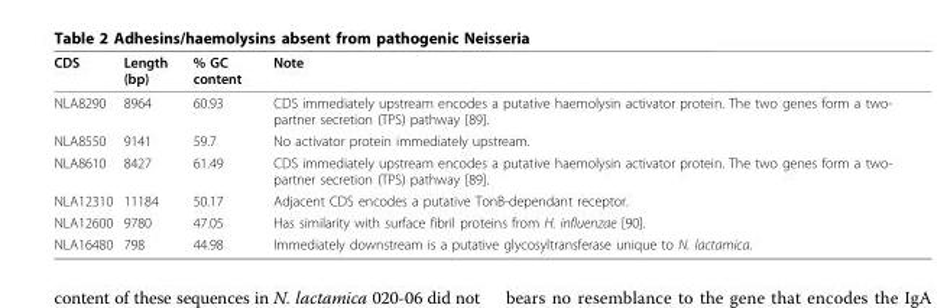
<table><thead><tr><td>CDS</td><td>Length (bp)</td><td>% GC content</td><td>Note</td></tr></thead><tbody><tr><td>NLA8290</td><td>8964</td><td>60.93</td><td>CDS immediately upstream encodes a putative haemolysin activator protein. The two genes form a two- partner secretion (TPS) pathway [89].</td></tr><tr><td>NLA8550</td><td>9141</td><td>59.7</td><td>No activator protein immediately upstream.</td></tr><tr><td>NLA8610</td><td>8427</td><td>61.49</td><td>CDS immediately upstream encodes a putative haemolysin activator protein. The two genes form a two- partner secretion (TPS) pathway [89].</td></tr><tr><td>NLA12310</td><td>11184</td><td>50.17</td><td>Adjacent CDS encodes a putative TonB-dependant receptor.</td></tr><tr><td>NLA12600</td><td>9780</td><td>47.05</td><td>Has similarity with surface fibril proteins from H. influenzae [90].</td></tr><tr><td>NLA16480</td><td>798</td><td>44.98</td><td>Immediately downstream is a putative glycosyltransferase unique to N. lactamica.</td></tr></tbody></table>